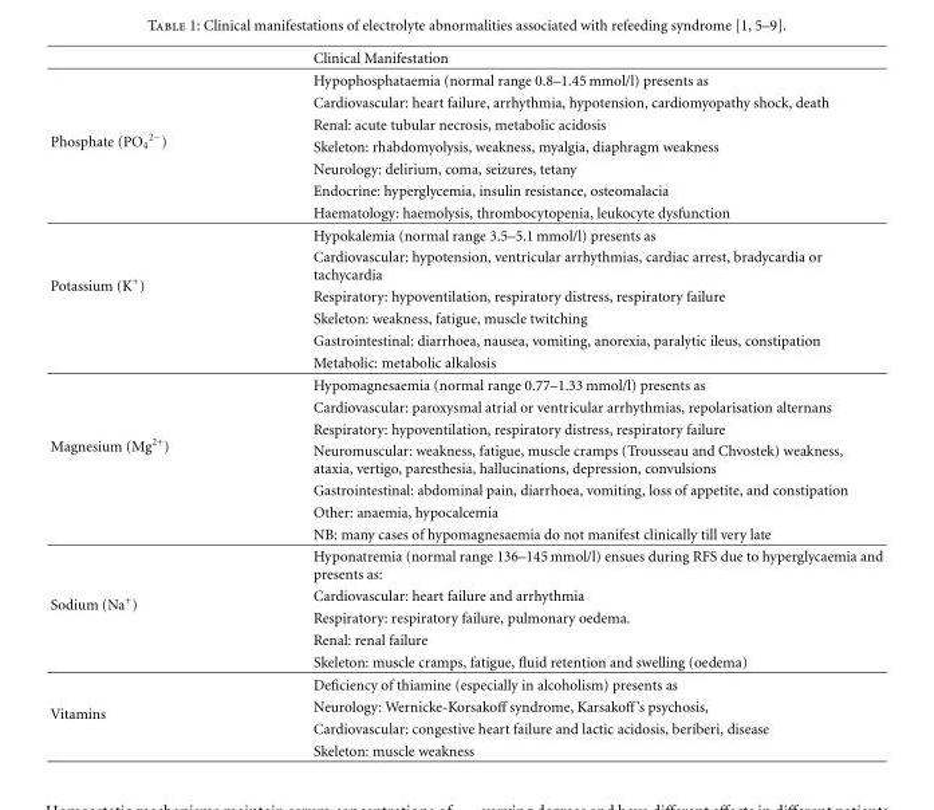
<table><thead><tr><td></td><td>Clinical Manifestation</td></tr></thead><tbody><tr><td rowspan="7">Phosphate (PO<sub>4</sub> <sup>2−</sup>)</td><td>Hypophosphataemia (normal range 0.8–1.45 mmol/l) presents as</td></tr><tr><td>Cardiovascular: heart failure, arrhythmia, hypotension, cardiomyopathy shock, death</td></tr><tr><td>Renal: acute tubular necrosis, metabolic acidosis</td></tr><tr><td>Skeleton: rhabdomyolysis, weakness, myalgia, diaphragm weakness</td></tr><tr><td>Neurology: delirium, coma, seizures, tetany</td></tr><tr><td>Endocrine: hyperglycemia, insulin resistance, osteomalacia</td></tr><tr><td>Haematology: haemolysis, thrombocytopenia, leukocyte dysfunction</td></tr><tr><td rowspan="6">Potassium (K<sup>+</sup>)</td><td>Hypokalemia (normal range 3.5–5.1 mmol/l) presents as</td></tr><tr><td>Cardiovascular: hypotension, ventricular arrhythmias, cardiac arrest, bradycardia or tachycardia</td></tr><tr><td>Respiratory: hypoventilation, respiratory distress, respiratory failure</td></tr><tr><td>Skeleton: weakness, fatigue, muscle twitching</td></tr><tr><td>Gastrointestinal: diarrhoea, nausea, vomiting, anorexia, paralytic ileus, constipation</td></tr><tr><td>Metabolic: metabolic alkalosis</td></tr><tr><td rowspan="7">Magnesium (Mg<sup>2+</sup>)</td><td>Hypomagnesaemia (normal range 0.77–1.33 mmol/l) presents as</td></tr><tr><td>Cardiovascular: paroxysmal atrial or ventricular arrhythmias, repolarisation alternans</td></tr><tr><td>Respiratory: hypoventilation, respiratory distress, respiratory failure</td></tr><tr><td>Neuromuscular: weakness, fatigue, muscle cramps (Trousseau and Chvostek) weakness, ataxia, vertigo, paresthesia, hallucinations, depression, convulsions</td></tr><tr><td>Gastrointestinal: abdominal pain, diarrhoea, vomiting, loss of appetite, and constipation</td></tr><tr><td>Other: anaemia, hypocalcemia</td></tr><tr><td>NB: many cases of hypomagnesaemia do not manifest clinically till very late</td></tr><tr><td rowspan="5">Sodium (Na<sup>+</sup>)</td><td>Hyponatremia (normal range 136–145 mmol/l) ensues during RFS due to hyperglycaemia and presents as:</td></tr><tr><td>Cardiovascular: heart failure and arrhythmia</td></tr><tr><td>Respiratory: respiratory failure, pulmonary oedema.</td></tr><tr><td>Renal: renal failure</td></tr><tr><td>Skeleton: muscle cramps, fatigue, fluid retention and swelling (oedema)</td></tr><tr><td rowspan="4">Vitamins</td><td>Deficiency of thiamine (especially in alcoholism) presents as</td></tr><tr><td>Neurology: Wernicke-Korsakoff syndrome, Karsakoff’s psychosis,</td></tr><tr><td>Cardiovascular: congestive heart failure and lactic acidosis, beriberi, disease</td></tr><tr><td>Skeleton: muscle weakness</td></tr></tbody></table>